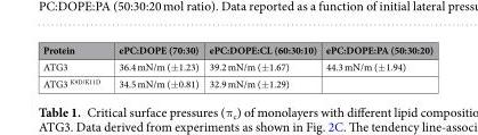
<table><thead><tr><td>Protein</td><td>ePC:DOPE (70:30)</td><td>ePC:DOPE:CL (60:30:10)</td><td>ePC:DOPE:PA (50:30:20)</td></tr></thead><tbody><tr><td>ATG3</td><td>36.4 mN/m (±1.23)</td><td>39.2 mN/m (±1.67)</td><td>44.3 mN/m (±1.94)</td></tr><tr><td>ATG3 <sup>K9D/K11D</sup></td><td>34.5 mN/m (±0.81)</td><td>32.9 mN/m (±1.29)</td><td></td></tr></tbody></table>